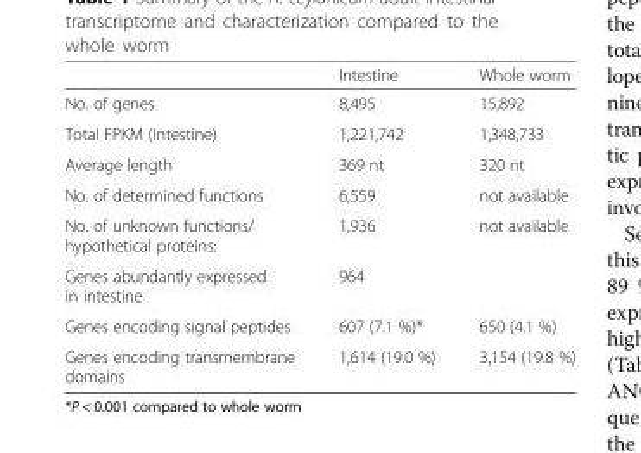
<table><thead><tr><td></td><td>Intestine</td><td>Whole worm</td></tr></thead><tbody><tr><td>No. of genes</td><td>8,495</td><td>15,892</td></tr><tr><td>Total FPKM (Intestine)</td><td>1,221,742</td><td>1,348,733</td></tr><tr><td>Average length</td><td>369 nt</td><td>320 nt</td></tr><tr><td>No. of determined functions</td><td>6,559</td><td>not available</td></tr><tr><td>No. of unknown functions/ hypothetical proteins:</td><td>1,936</td><td>not available</td></tr><tr><td>Genes abundantly expressed in intestine</td><td>964</td><td></td></tr><tr><td>Genes encoding signal peptides</td><td>607 (7.1 %)*</td><td>650 (4.1 %)</td></tr><tr><td>Genes encoding transmembrane domains</td><td>1,614 (19.0 %)</td><td>3,154 (19.8 %)</td></tr></tbody></table>